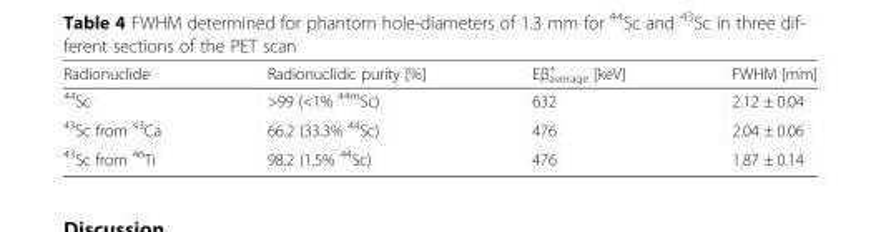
<table><thead><tr><td>Radionuclide</td><td>Radionuclidic purity [%]</td><td>Eβ<sup>+</sup> <sub>average</sub> [keV]</td><td>FWHM [mm]</td></tr></thead><tbody><tr><td><sup>44</sup>Sc</td><td>&gt;99 (&lt;1% <sup>44m</sup>Sc)</td><td>632</td><td>2.12 ± 0.04</td></tr><tr><td><sup>43</sup>Sc from <sup>43</sup>Ca</td><td>66.2 (33.3% <sup>44</sup>Sc)</td><td>476</td><td>2.04 ± 0.06</td></tr><tr><td><sup>43</sup>Sc from <sup>46</sup>Ti</td><td>98.2 (1.5% <sup>44</sup>Sc)</td><td>476</td><td>1.87 ± 0.14</td></tr></tbody></table>